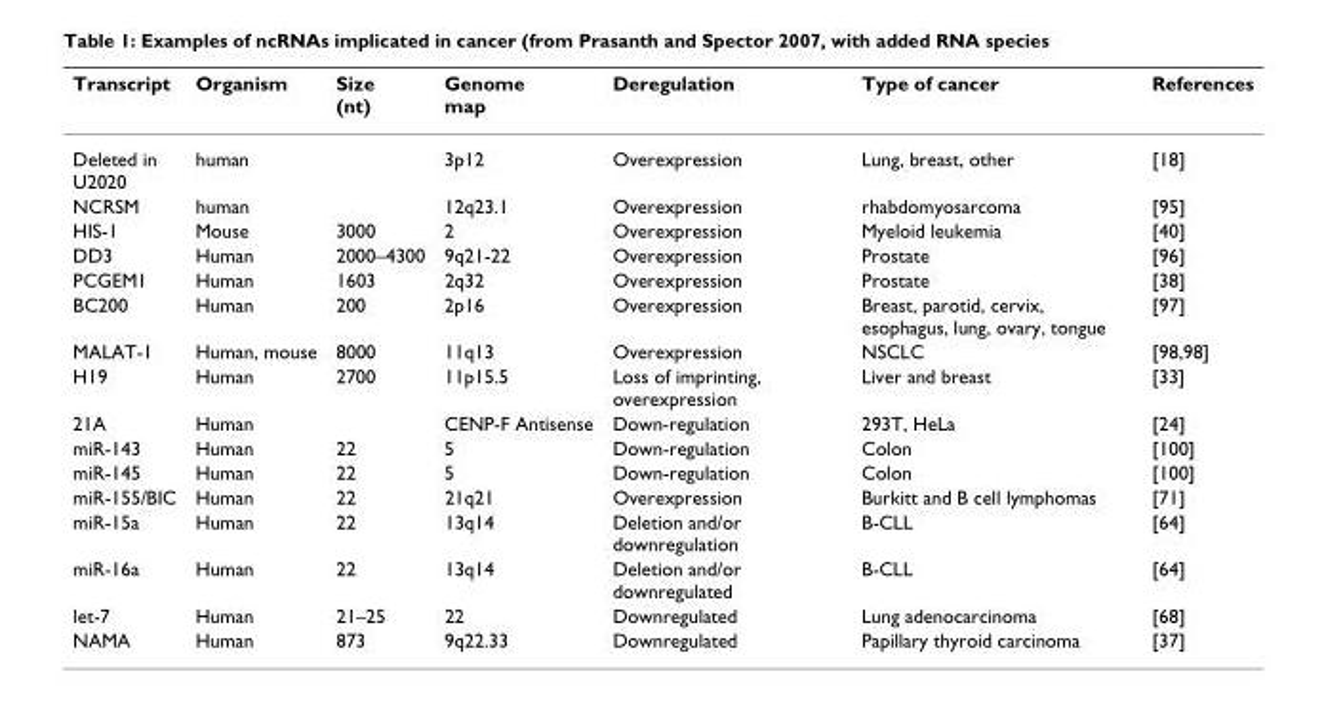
<table><thead><tr><td>Transcript</td><td>Organism</td><td>Size (nt)</td><td>Genome map</td><td>Deregulation</td><td>Type of cancer</td><td>References</td></tr></thead><tbody><tr><td>Deleted in U2020</td><td>human</td><td></td><td>3p12</td><td>Overexpression</td><td>Lung, breast, other</td><td>[18]</td></tr><tr><td>NCRSM</td><td>human</td><td></td><td>12q23.1</td><td>Overexpression</td><td>rhabdomyosarcoma</td><td>[95]</td></tr><tr><td>HIS-1</td><td>Mouse</td><td>3000</td><td>2</td><td>Overexpression</td><td>Myeloid leukemia</td><td>[40]</td></tr><tr><td>DD3</td><td>Human</td><td>2000–4300</td><td>9q21-22</td><td>Overexpression</td><td>Prostate</td><td>[96]</td></tr><tr><td>PCGEM1</td><td>Human</td><td>1603</td><td>2q32</td><td>Overexpression</td><td>Prostate</td><td>[38]</td></tr><tr><td>BC200</td><td>Human</td><td>200</td><td>2p16</td><td>Overexpression</td><td>Breast, parotid, cervix, esophagus, lung, ovary, tongue</td><td>[97]</td></tr><tr><td>MALAT-1</td><td>Human, mouse</td><td>8000</td><td>11q13</td><td>Overexpression</td><td>NSCLC</td><td>[98,98]</td></tr><tr><td>H19</td><td>Human</td><td>2700</td><td>11p15.5</td><td>Loss of imprinting, overexpression</td><td>Liver and breast</td><td>[33]</td></tr><tr><td>21A</td><td>Human</td><td></td><td>CENP-F Antisense</td><td>Down-regulation</td><td>293T, HeLa</td><td>[24]</td></tr><tr><td>miR-143</td><td>Human</td><td>22</td><td>5</td><td>Down-regulation</td><td>Colon</td><td>[100]</td></tr><tr><td>miR-145</td><td>Human</td><td>22</td><td>5</td><td>Down-regulation</td><td>Colon</td><td>[100]</td></tr><tr><td>miR-155/BIC</td><td>Human</td><td>22</td><td>21q21</td><td>Overexpression</td><td>Burkitt and B cell lymphomas</td><td>[71]</td></tr><tr><td>miR-15a</td><td>Human</td><td>22</td><td>13q14</td><td>Deletion and/or downregulation</td><td>B-CLL</td><td>[64]</td></tr><tr><td>miR-16a</td><td>Human</td><td>22</td><td>13q14</td><td>Deletion and/or downregulated</td><td>B-CLL</td><td>[64]</td></tr><tr><td>let-7</td><td>Human</td><td>21–25</td><td>22</td><td>Downregulated</td><td>Lung adenocarcinoma</td><td>[68]</td></tr><tr><td>NAMA</td><td>Human</td><td>873</td><td>9q22.33</td><td>Downregulated</td><td>Papillary thyroid carcinoma</td><td>[37]</td></tr></tbody></table>